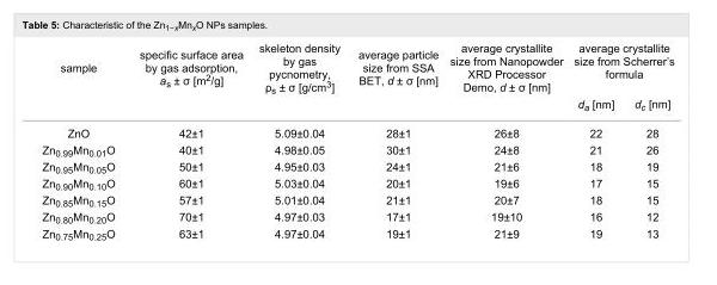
<table><tbody><tr><td rowspan="2">sample</td><td>specific surface area by gas adsorption, a<sub>s</sub> ± σ [m<sup>2</sup>/g]</td><td>skeleton density by gas pycnometry, ρ<sub>s</sub> ± σ [g/cm<sup>3</sup>]</td><td>average particle size from SSA BET, d ± σ [nm]</td><td>average crystallite size from Nanopowder XRD Processor Demo, d ± σ [nm]</td><td colspan="2">average crystallite size from Scherrer’s formula</td></tr><tr><td></td><td></td><td></td><td></td><td>d<sub>a</sub> [nm]</td><td>d<sub>c</sub> [nm]</td></tr><tr><td>ZnO</td><td>42±1</td><td>5.09±0.04</td><td>28±1</td><td>26±8</td><td>22</td><td>28</td></tr><tr><td>Zn<sub>0.99</sub>Mn<sub>0.01</sub>O</td><td>40±1</td><td>4.98±0.05</td><td>30±1</td><td>24±8</td><td>21</td><td>26</td></tr><tr><td>Zn<sub>0.95</sub>Mn<sub>0.05</sub>O</td><td>50±1</td><td>4.95±0.03</td><td>24±1</td><td>21±6</td><td>18</td><td>19</td></tr><tr><td>Zn<sub>0.90</sub>Mn<sub>0.10</sub>O</td><td>60±1</td><td>5.03±0.04</td><td>20±1</td><td>19±6</td><td>17</td><td>15</td></tr><tr><td>Zn<sub>0.85</sub>Mn<sub>0.15</sub>O</td><td>57±1</td><td>5.01±0.04</td><td>21±1</td><td>20±7</td><td>18</td><td>15</td></tr><tr><td>Zn<sub>0.80</sub>Mn<sub>0.20</sub>O</td><td>70±1</td><td>4.97±0.03</td><td>17±1</td><td>19±10</td><td>16</td><td>12</td></tr><tr><td>Zn<sub>0.75</sub>Mn<sub>0.25</sub>O</td><td>63±1</td><td>4.97±0.04</td><td>19±1</td><td>21±9</td><td>19</td><td>13</td></tr></tbody></table>